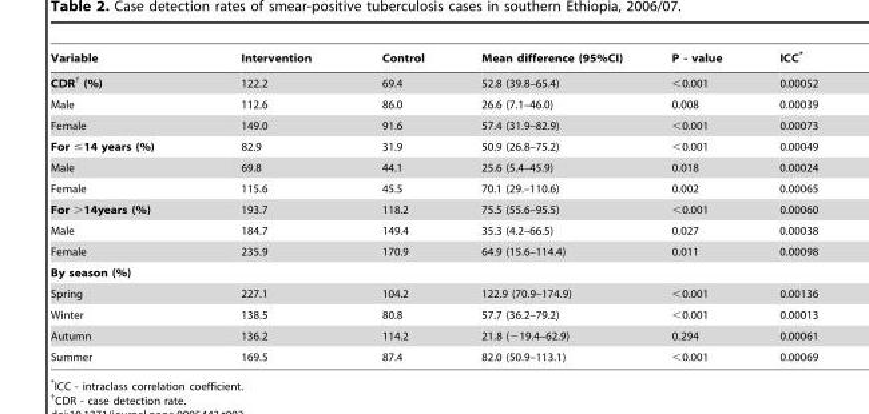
<table><thead><tr><td>Variable</td><td>Intervention</td><td>Control</td><td>Mean difference (95%CI)</td><td>P - value</td><td>ICC*</td></tr></thead><tbody><tr><td>CDR† (%)</td><td>122.2</td><td>69.4</td><td>52.8 (39.8–65.4)</td><td>&lt;0.001</td><td>0.00052</td></tr><tr><td>Male</td><td>112.6</td><td>86.0</td><td>26.6 (7.1–46.0)</td><td>0.008</td><td>0.00039</td></tr><tr><td>Female</td><td>149.0</td><td>91.6</td><td>57.4 (31.9–82.9)</td><td>&lt;0.001</td><td>0.00073</td></tr><tr><td>For ≤14 years (%)</td><td>82.9</td><td>31.9</td><td>50.9 (26.8–75.2)</td><td>&lt;0.001</td><td>0.00049</td></tr><tr><td>Male</td><td>69.8</td><td>44.1</td><td>25.6 (5.4–45.9)</td><td>0.018</td><td>0.00024</td></tr><tr><td>Female</td><td>115.6</td><td>45.5</td><td>70.1 (29.–110.6)</td><td>0.002</td><td>0.00065</td></tr><tr><td>For &gt;14years (%)</td><td>193.7</td><td>118.2</td><td>75.5 (55.6–95.5)</td><td>&lt;0.001</td><td>0.00060</td></tr><tr><td>Male</td><td>184.7</td><td>149.4</td><td>35.3 (4.2–66.5)</td><td>0.027</td><td>0.00038</td></tr><tr><td>Female</td><td>235.9</td><td>170.9</td><td>64.9 (15.6–114.4)</td><td>0.011</td><td>0.00098</td></tr><tr><td colspan="6">By season (%)</td></tr><tr><td>Spring</td><td>227.1</td><td>104.2</td><td>122.9 (70.9–174.9)</td><td>&lt;0.001</td><td>0.00136</td></tr><tr><td>Winter</td><td>138.5</td><td>80.8</td><td>57.7 (36.2–79.2)</td><td>&lt;0.001</td><td>0.00013</td></tr><tr><td>Autumn</td><td>136.2</td><td>114.2</td><td>21.8 (−19.4–62.9)</td><td>0.294</td><td>0.00061</td></tr><tr><td>Summer</td><td>169.5</td><td>87.4</td><td>82.0 (50.9–113.1)</td><td>&lt;0.001</td><td>0.00069</td></tr></tbody></table>